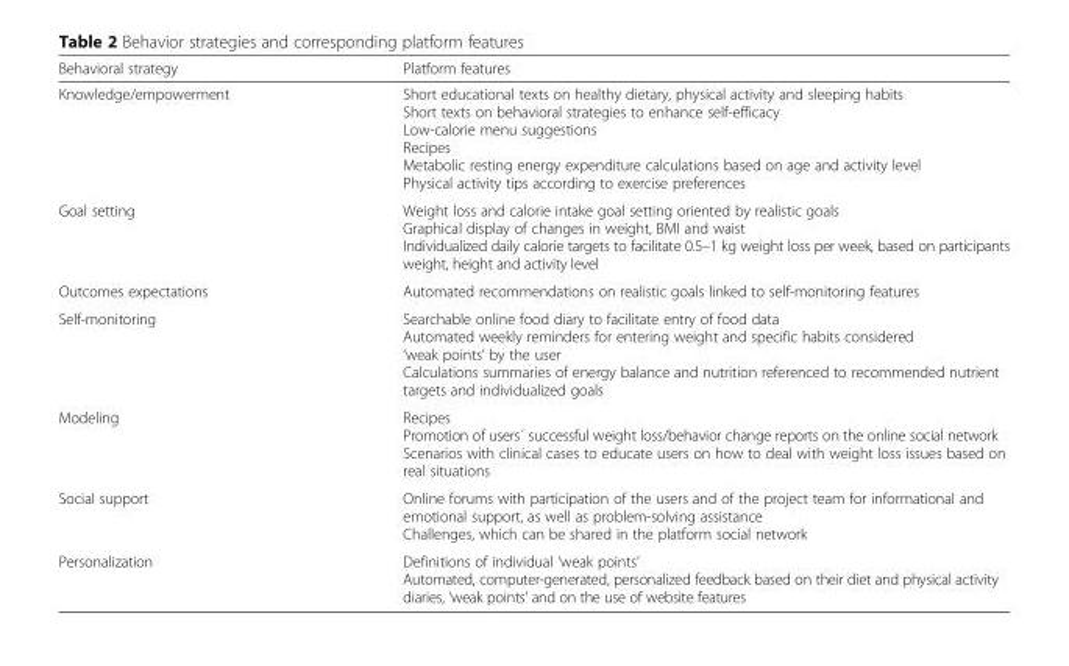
<table><thead><tr><td>Behavioral strategy</td><td>Platform features</td></tr></thead><tbody><tr><td>Knowledge/empowerment</td><td>Short educational texts on healthy dietary, physical activity and sleeping habits Short texts on behavioral strategies to enhance self-efficacy Low-calorie menu suggestions Recipes Metabolic resting energy expenditure calculations based on age and activity level Physical activity tips according to exercise preferences</td></tr><tr><td>Goal setting</td><td>Weight loss and calorie intake goal setting oriented by realistic goals Graphical display of changes in weight, BMI and waist Individualized daily calorie targets to facilitate 0.5–1 kg weight loss per week, based on participants weight, height and activity level</td></tr><tr><td>Outcomes expectations</td><td>Automated recommendations on realistic goals linked to self-monitoring features</td></tr><tr><td>Self-monitoring</td><td>Searchable online food diary to facilitate entry of food data Automated weekly reminders for entering weight and specific habits considered ‘weak points’ by the user Calculations summaries of energy balance and nutrition referenced to recommended nutrient targets and individualized goals</td></tr><tr><td>Modeling</td><td>Recipes Promotion of users´ successful weight loss/behavior change reports on the online social network Scenarios with clinical cases to educate users on how to deal with weight loss issues based on real situations</td></tr><tr><td>Social support</td><td>Online forums with participation of the users and of the project team for informational and emotional support, as well as problem-solving assistance Challenges, which can be shared in the platform social network</td></tr><tr><td>Personalization</td><td>Definitions of individual ‘weak points’ Automated, computer-generated, personalized feedback based on their diet and physical activity diaries, ‘weak points’ and on the use of website features</td></tr></tbody></table>